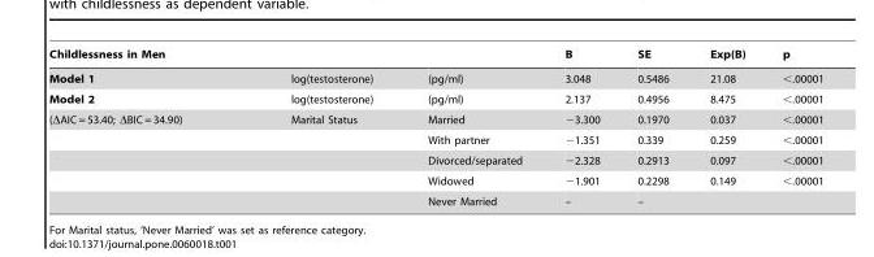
<table><thead><tr><td>Childlessness in Men</td><td></td><td></td><td>B</td><td>SE</td><td>Exp(B)</td><td>p</td></tr></thead><tbody><tr><td>Model 1</td><td>log(testosterone)</td><td>(pg/ml)</td><td>3.048</td><td>0.5486</td><td>21.08</td><td>&lt;.00001</td></tr><tr><td>Model 2</td><td>log(testosterone)</td><td>(pg/ml)</td><td>2.137</td><td>0.4956</td><td>8.475</td><td>&lt;.00001</td></tr><tr><td rowspan="5">(ΔAIC = 53.40; ΔBIC = 34.90)</td><td>Marital Status</td><td>Married</td><td>−3.300</td><td>0.1970</td><td>0.037</td><td>&lt;.00001</td></tr><tr><td></td><td>With partner</td><td>−1.351</td><td>0.339</td><td>0.259</td><td>&lt;.00001</td></tr><tr><td></td><td>Divorced/separated</td><td>−2.328</td><td>0.2913</td><td>0.097</td><td>&lt;.00001</td></tr><tr><td></td><td>Widowed</td><td>−1.901</td><td>0.2298</td><td>0.149</td><td>&lt;.00001</td></tr><tr><td></td><td>Never Married</td><td>–</td><td>–</td><td></td><td></td></tr></tbody></table>